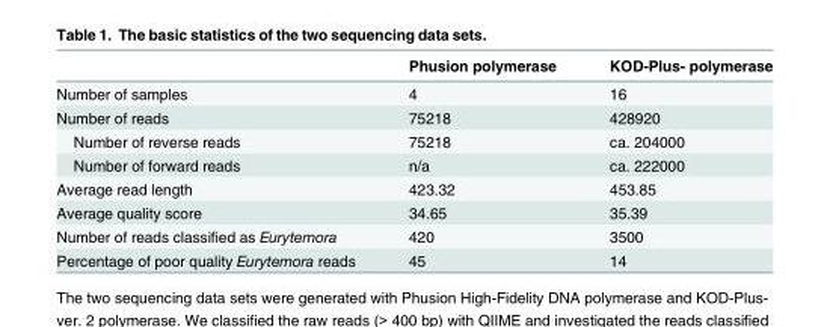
<table><thead><tr><td></td><td>Phusion polymerase</td><td>KOD-Plus- polymerase</td></tr></thead><tbody><tr><td>Number of samples</td><td>4</td><td>16</td></tr><tr><td>Number of reads</td><td>75218</td><td>428920</td></tr><tr><td>Number of reverse reads</td><td>75218</td><td>ca. 204000</td></tr><tr><td>Number of forward reads</td><td>n/a</td><td>ca. 222000</td></tr><tr><td>Average read length</td><td>423.32</td><td>453.85</td></tr><tr><td>Average quality score</td><td>34.65</td><td>35.39</td></tr><tr><td>Number of reads classified as Eurytemora</td><td>420</td><td>3500</td></tr><tr><td>Percentage of poor quality Eurytemora reads</td><td>45</td><td>14</td></tr></tbody></table>